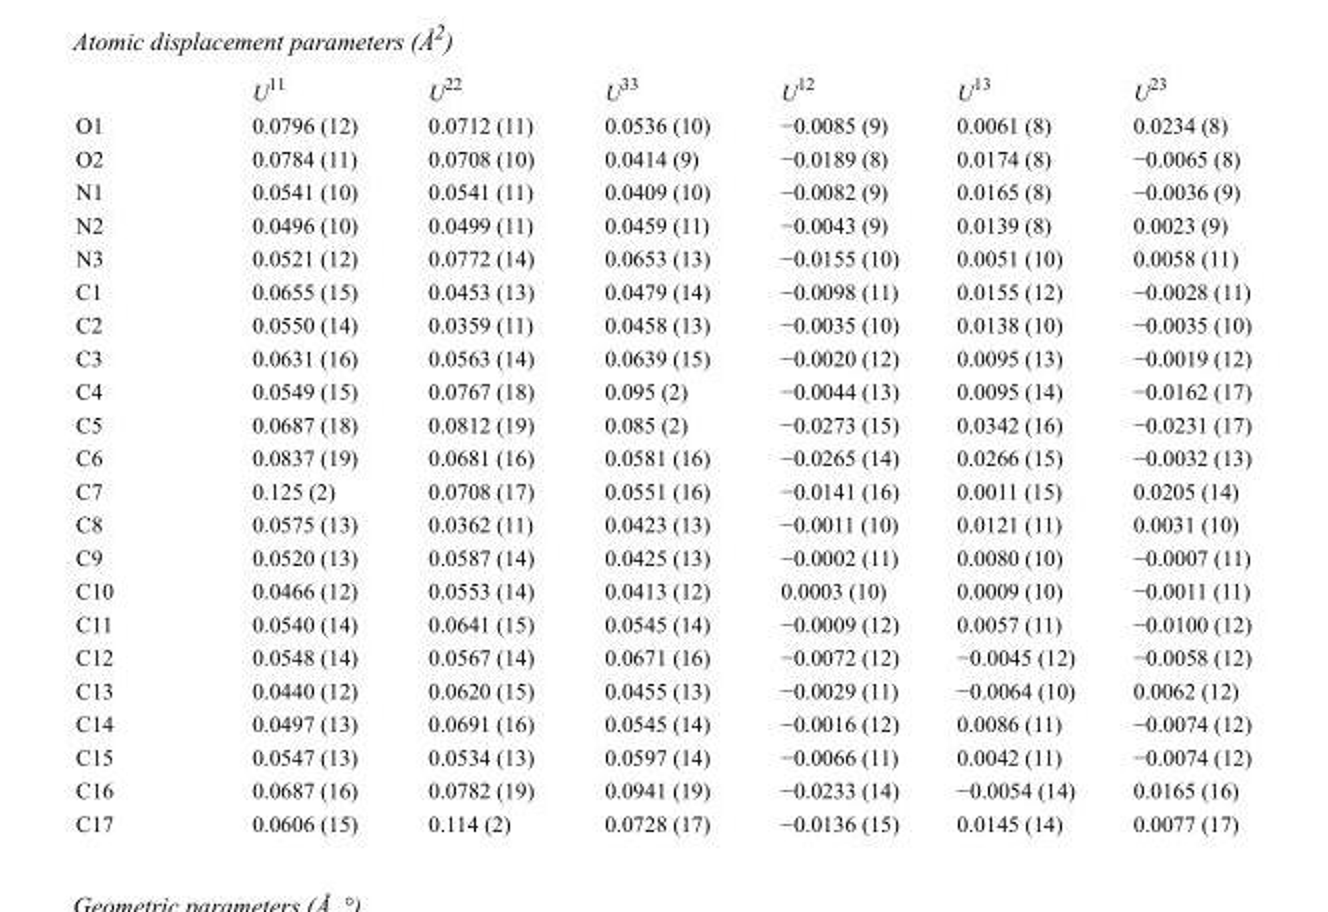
<table><thead><tr><td></td><td>U<sup>11</sup></td><td>U<sup>22</sup></td><td>U<sup>33</sup></td><td>U<sup>12</sup></td><td>U<sup>13</sup></td><td>U<sup>23</sup></td></tr></thead><tbody><tr><td>O1</td><td>0.0796 (12)</td><td>0.0712 (11)</td><td>0.0536 (10)</td><td>−0.0085 (9)</td><td>0.0061 (8)</td><td>0.0234 (8)</td></tr><tr><td>O2</td><td>0.0784 (11)</td><td>0.0708 (10)</td><td>0.0414 (9)</td><td>−0.0189 (8)</td><td>0.0174 (8)</td><td>−0.0065 (8)</td></tr><tr><td>N1</td><td>0.0541 (10)</td><td>0.0541 (11)</td><td>0.0409 (10)</td><td>−0.0082 (9)</td><td>0.0165 (8)</td><td>−0.0036 (9)</td></tr><tr><td>N2</td><td>0.0496 (10)</td><td>0.0499 (11)</td><td>0.0459 (11)</td><td>−0.0043 (9)</td><td>0.0139 (8)</td><td>0.0023 (9)</td></tr><tr><td>N3</td><td>0.0521 (12)</td><td>0.0772 (14)</td><td>0.0653 (13)</td><td>−0.0155 (10)</td><td>0.0051 (10)</td><td>0.0058 (11)</td></tr><tr><td>C1</td><td>0.0655 (15)</td><td>0.0453 (13)</td><td>0.0479 (14)</td><td>−0.0098 (11)</td><td>0.0155 (12)</td><td>−0.0028 (11)</td></tr><tr><td>C2</td><td>0.0550 (14)</td><td>0.0359 (11)</td><td>0.0458 (13)</td><td>−0.0035 (10)</td><td>0.0138 (10)</td><td>−0.0035 (10)</td></tr><tr><td>C3</td><td>0.0631 (16)</td><td>0.0563 (14)</td><td>0.0639 (15)</td><td>−0.0020 (12)</td><td>0.0095 (13)</td><td>−0.0019 (12)</td></tr><tr><td>C4</td><td>0.0549 (15)</td><td>0.0767 (18)</td><td>0.095 (2)</td><td>−0.0044 (13)</td><td>0.0095 (14)</td><td>−0.0162 (17)</td></tr><tr><td>C5</td><td>0.0687 (18)</td><td>0.0812 (19)</td><td>0.085 (2)</td><td>−0.0273 (15)</td><td>0.0342 (16)</td><td>−0.0231 (17)</td></tr><tr><td>C6</td><td>0.0837 (19)</td><td>0.0681 (16)</td><td>0.0581 (16)</td><td>−0.0265 (14)</td><td>0.0266 (15)</td><td>−0.0032 (13)</td></tr><tr><td>C7</td><td>0.125 (2)</td><td>0.0708 (17)</td><td>0.0551 (16)</td><td>−0.0141 (16)</td><td>0.0011 (15)</td><td>0.0205 (14)</td></tr><tr><td>C8</td><td>0.0575 (13)</td><td>0.0362 (11)</td><td>0.0423 (13)</td><td>−0.0011 (10)</td><td>0.0121 (11)</td><td>0.0031 (10)</td></tr><tr><td>C9</td><td>0.0520 (13)</td><td>0.0587 (14)</td><td>0.0425 (13)</td><td>−0.0002 (11)</td><td>0.0080 (10)</td><td>−0.0007 (11)</td></tr><tr><td>C10</td><td>0.0466 (12)</td><td>0.0553 (14)</td><td>0.0413 (12)</td><td>0.0003 (10)</td><td>0.0009 (10)</td><td>−0.0011 (11)</td></tr><tr><td>C11</td><td>0.0540 (14)</td><td>0.0641 (15)</td><td>0.0545 (14)</td><td>−0.0009 (12)</td><td>0.0057 (11)</td><td>−0.0100 (12)</td></tr><tr><td>C12</td><td>0.0548 (14)</td><td>0.0567 (14)</td><td>0.0671 (16)</td><td>−0.0072 (12)</td><td>−0.0045 (12)</td><td>−0.0058 (12)</td></tr><tr><td>C13</td><td>0.0440 (12)</td><td>0.0620 (15)</td><td>0.0455 (13)</td><td>−0.0029 (11)</td><td>−0.0064 (10)</td><td>0.0062 (12)</td></tr><tr><td>C14</td><td>0.0497 (13)</td><td>0.0691 (16)</td><td>0.0545 (14)</td><td>−0.0016 (12)</td><td>0.0086 (11)</td><td>−0.0074 (12)</td></tr><tr><td>C15</td><td>0.0547 (13)</td><td>0.0534 (13)</td><td>0.0597 (14)</td><td>−0.0066 (11)</td><td>0.0042 (11)</td><td>−0.0074 (12)</td></tr><tr><td>C16</td><td>0.0687 (16)</td><td>0.0782 (19)</td><td>0.0941 (19)</td><td>−0.0233 (14)</td><td>−0.0054 (14)</td><td>0.0165 (16)</td></tr><tr><td>C17</td><td>0.0606 (15)</td><td>0.114 (2)</td><td>0.0728 (17)</td><td>−0.0136 (15)</td><td>0.0145 (14)</td><td>0.0077 (17)</td></tr></tbody></table>